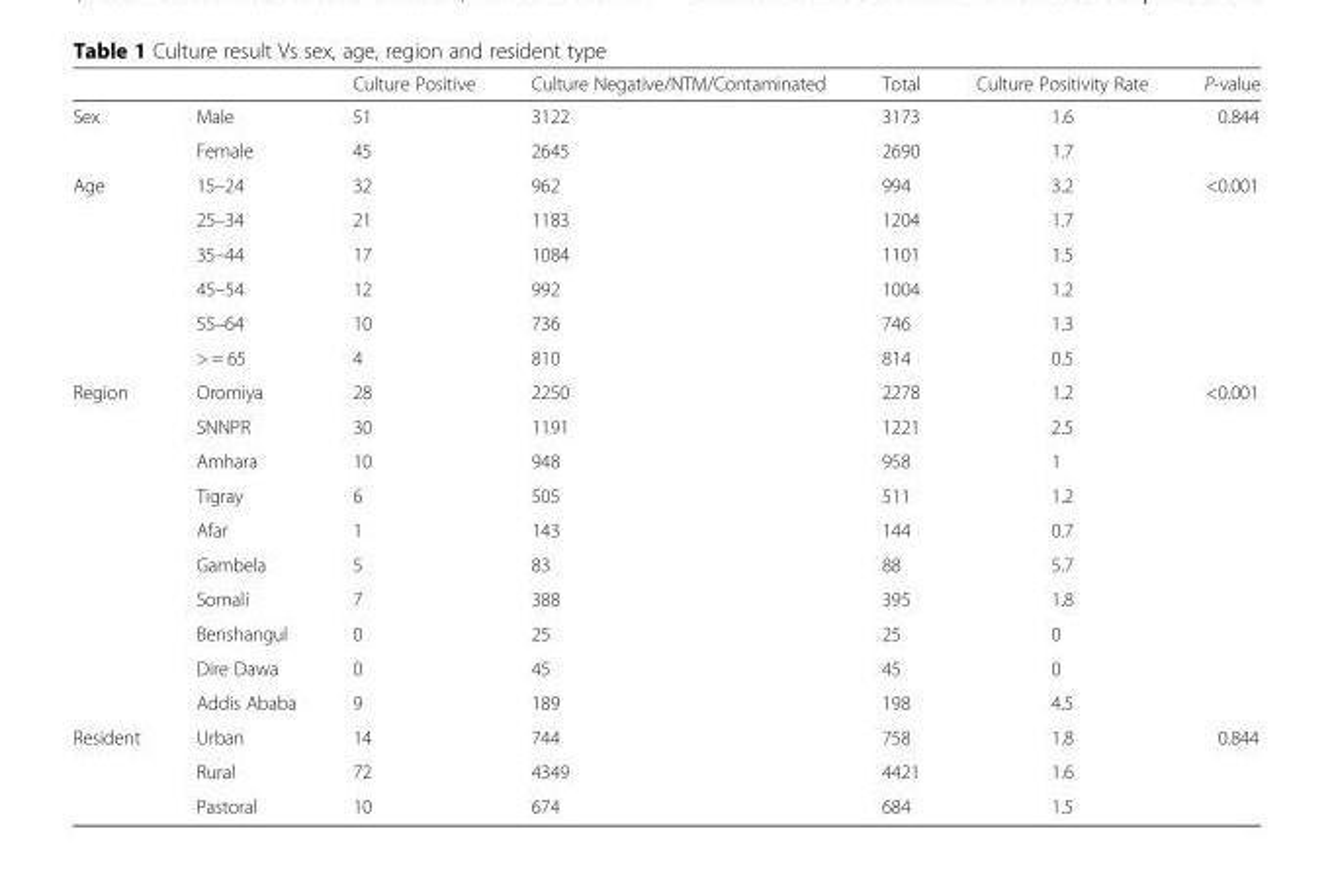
<table><thead><tr><td></td><td></td><td>Culture Positive</td><td>Culture Negative/NTM/Contaminated</td><td>Total</td><td>Culture Positivity Rate</td><td>P-value</td></tr></thead><tbody><tr><td rowspan="2">Sex</td><td>Male</td><td>51</td><td>3122</td><td>3173</td><td>1.6</td><td>0.844</td></tr><tr><td>Female</td><td>45</td><td>2645</td><td>2690</td><td>1.7</td><td></td></tr><tr><td rowspan="6">Age</td><td>15–24</td><td>32</td><td>962</td><td>994</td><td>3.2</td><td>&lt;0.001</td></tr><tr><td>25–34</td><td>21</td><td>1183</td><td>1204</td><td>1.7</td><td></td></tr><tr><td>35–44</td><td>17</td><td>1084</td><td>1101</td><td>1.5</td><td></td></tr><tr><td>45–54</td><td>12</td><td>992</td><td>1004</td><td>1.2</td><td></td></tr><tr><td>55–64</td><td>10</td><td>736</td><td>746</td><td>1.3</td><td></td></tr><tr><td>&gt; = 65</td><td>4</td><td>810</td><td>814</td><td>0.5</td><td></td></tr><tr><td rowspan="10">Region</td><td>Oromiya</td><td>28</td><td>2250</td><td>2278</td><td>1.2</td><td>&lt;0.001</td></tr><tr><td>SNNPR</td><td>30</td><td>1191</td><td>1221</td><td>2.5</td><td></td></tr><tr><td>Amhara</td><td>10</td><td>948</td><td>958</td><td>1</td><td></td></tr><tr><td>Tigray</td><td>6</td><td>505</td><td>511</td><td>1.2</td><td></td></tr><tr><td>Afar</td><td>1</td><td>143</td><td>144</td><td>0.7</td><td></td></tr><tr><td>Gambela</td><td>5</td><td>83</td><td>88</td><td>5.7</td><td></td></tr><tr><td>Somali</td><td>7</td><td>388</td><td>395</td><td>1.8</td><td></td></tr><tr><td>Benshangul</td><td>0</td><td>25</td><td>25</td><td>0</td><td></td></tr><tr><td>Dire Dawa</td><td>0</td><td>45</td><td>45</td><td>0</td><td></td></tr><tr><td>Addis Ababa</td><td>9</td><td>189</td><td>198</td><td>4.5</td><td></td></tr><tr><td rowspan="3">Resident</td><td>Urban</td><td>14</td><td>744</td><td>758</td><td>1.8</td><td>0.844</td></tr><tr><td>Rural</td><td>72</td><td>4349</td><td>4421</td><td>1.6</td><td></td></tr><tr><td>Pastoral</td><td>10</td><td>674</td><td>684</td><td>1.5</td><td></td></tr></tbody></table>